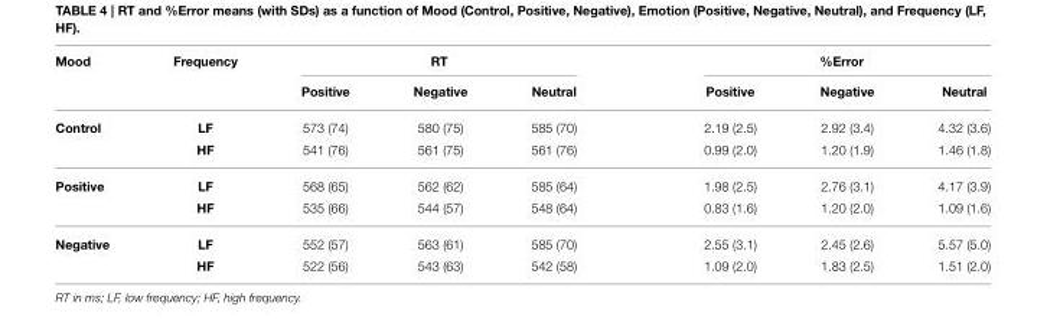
<table><thead><tr><td rowspan="2">Mood</td><td rowspan="2">Frequency</td><td colspan="3">RT</td><td colspan="3">%Error</td></tr><tr><td>Positive</td><td>Negative</td><td>Neutral</td><td>Positive</td><td>Negative</td><td>Neutral</td></tr></thead><tbody><tr><td rowspan="2">Control</td><td>LF</td><td>573 (74)</td><td>580 (75)</td><td>585 (70)</td><td>2.19 (2.5)</td><td>2.92 (3.4)</td><td>4.32 (3.6)</td></tr><tr><td>HF</td><td>541 (76)</td><td>561 (75)</td><td>561 (76)</td><td>0.99 (2.0)</td><td>1.20 (1.9)</td><td>1.46 (1.8)</td></tr><tr><td rowspan="2">Positive</td><td>LF</td><td>568 (65)</td><td>562 (62)</td><td>585 (64)</td><td>1.98 (2.5)</td><td>2.76 (3.1)</td><td>4.17 (3.9)</td></tr><tr><td>HF</td><td>535 (66)</td><td>544 (57)</td><td>548 (64)</td><td>0.83 (1.6)</td><td>1.20 (2.0)</td><td>1.09 (1.6)</td></tr><tr><td rowspan="2">Negative</td><td>LF</td><td>552 (57)</td><td>563 (61)</td><td>585 (70)</td><td>2.55 (3.1)</td><td>2.45 (2.6)</td><td>5.57 (5.0)</td></tr><tr><td>HF</td><td>522 (56)</td><td>543 (63)</td><td>542 (58)</td><td>1.09 (2.0)</td><td>1.83 (2.5)</td><td>1.51 (2.0)</td></tr></tbody></table>